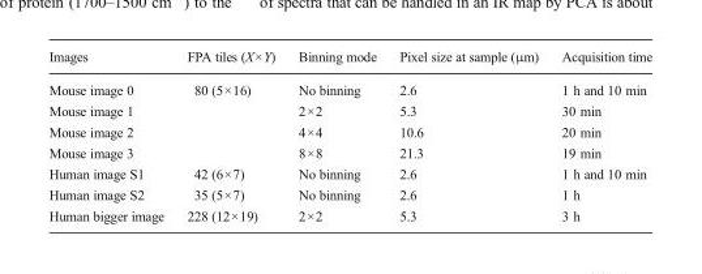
<table><thead><tr><td>Images</td><td>FPA tiles (X×Y)</td><td>Binning mode</td><td>Pixel size at sample (μm)</td><td>Acquisition time</td></tr></thead><tbody><tr><td>Mouse image 0</td><td rowspan="4">80 (5×16)</td><td>No binning</td><td>2.6</td><td>1 h and 10 min</td></tr><tr><td>Mouse image 1</td><td>2×2</td><td>5.3</td><td>30 min</td></tr><tr><td>Mouse image 2</td><td>4×4</td><td>10.6</td><td>20 min</td></tr><tr><td>Mouse image 3</td><td>8×8</td><td>21.3</td><td>19 min</td></tr><tr><td>Human image S1</td><td>42 (6×7)</td><td>No binning</td><td>2.6</td><td>1 h and 10 min</td></tr><tr><td>Human image S2</td><td>35 (5×7)</td><td>No binning</td><td>2.6</td><td>1 h</td></tr><tr><td>Human bigger image</td><td>228 (12×19)</td><td>2×2</td><td>5.3</td><td>3 h</td></tr></tbody></table>